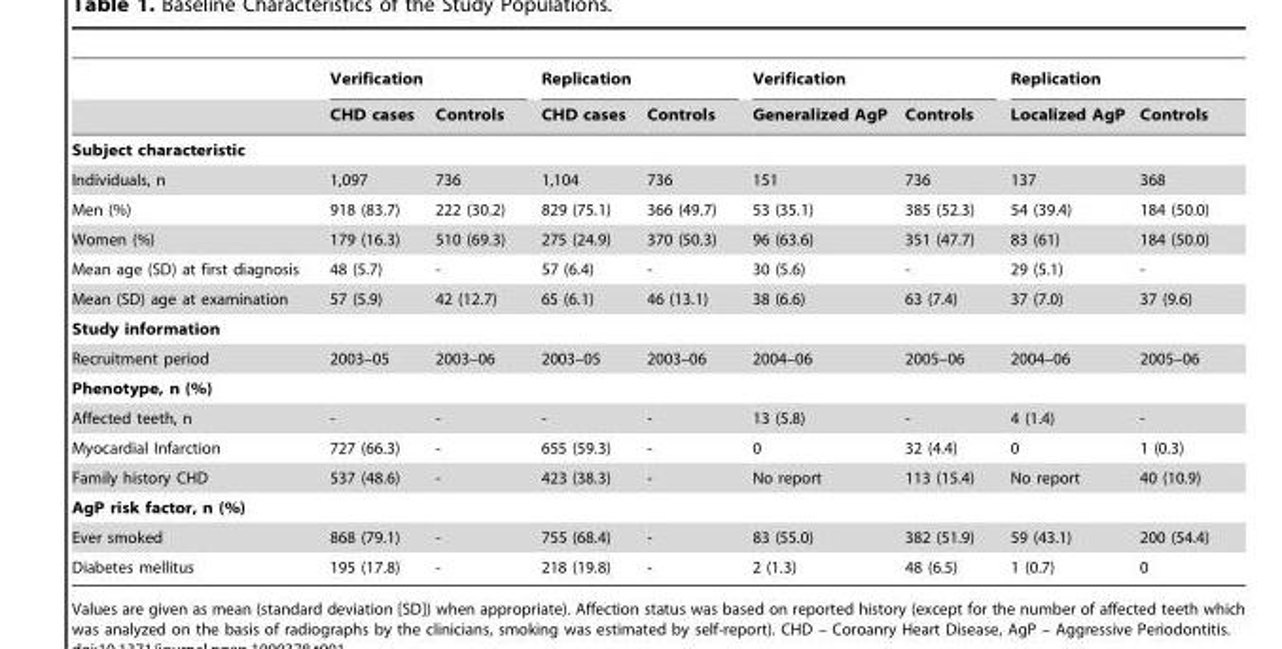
<table><thead><tr><td rowspan="2"></td><td colspan="2">Verification</td><td colspan="2">Replication</td><td colspan="2">Verification</td><td colspan="2">Replication</td></tr><tr><td>CHD cases</td><td>Controls</td><td>CHD cases</td><td>Controls</td><td>Generalized AgP</td><td>Controls</td><td>Localized AgP</td><td>Controls</td></tr></thead><tbody><tr><td colspan="9">Subject characteristic</td></tr><tr><td>Individuals, n</td><td>1,097</td><td>736</td><td>1,104</td><td>736</td><td>151</td><td>736</td><td>137</td><td>368</td></tr><tr><td>Men (%)</td><td>918 (83.7)</td><td>222 (30.2)</td><td>829 (75.1)</td><td>366 (49.7)</td><td>53 (35.1)</td><td>385 (52.3)</td><td>54 (39.4)</td><td>184 (50.0)</td></tr><tr><td>Women (%)</td><td>179 (16.3)</td><td>510 (69.3)</td><td>275 (24.9)</td><td>370 (50.3)</td><td>96 (63.6)</td><td>351 (47.7)</td><td>83 (61)</td><td>184 (50.0)</td></tr><tr><td>Mean age (SD) at first diagnosis</td><td>48 (5.7)</td><td>-</td><td>57 (6.4)</td><td>-</td><td>30 (5.6)</td><td>-</td><td>29 (5.1)</td><td>-</td></tr><tr><td>Mean (SD) age at examination</td><td>57 (5.9)</td><td>42 (12.7)</td><td>65 (6.1)</td><td>46 (13.1)</td><td>38 (6.6)</td><td>63 (7.4)</td><td>37 (7.0)</td><td>37 (9.6)</td></tr><tr><td colspan="9">Study information</td></tr><tr><td>Recruitment period</td><td>2003–05</td><td>2003–06</td><td>2003–05</td><td>2003–06</td><td>2004–06</td><td>2005–06</td><td>2004–06</td><td>2005–06</td></tr><tr><td colspan="9">Phenotype, n (%)</td></tr><tr><td>Affected teeth, n</td><td>-</td><td>-</td><td>-</td><td>-</td><td>13 (5.8)</td><td>-</td><td>4 (1.4)</td><td>-</td></tr><tr><td>Myocardial Infarction</td><td>727 (66.3)</td><td>-</td><td>655 (59.3)</td><td>-</td><td>0</td><td>32 (4.4)</td><td>0</td><td>1 (0.3)</td></tr><tr><td>Family history CHD</td><td>537 (48.6)</td><td>-</td><td>423 (38.3)</td><td>-</td><td>No report</td><td>113 (15.4)</td><td>No report</td><td>40 (10.9)</td></tr><tr><td colspan="9">AgP risk factor, n (%)</td></tr><tr><td>Ever smoked</td><td>868 (79.1)</td><td>-</td><td>755 (68.4)</td><td>-</td><td>83 (55.0)</td><td>382 (51.9)</td><td>59 (43.1)</td><td>200 (54.4)</td></tr><tr><td>Diabetes mellitus</td><td>195 (17.8)</td><td>-</td><td>218 (19.8)</td><td>-</td><td>2 (1.3)</td><td>48 (6.5)</td><td>1 (0.7)</td><td>0</td></tr></tbody></table>